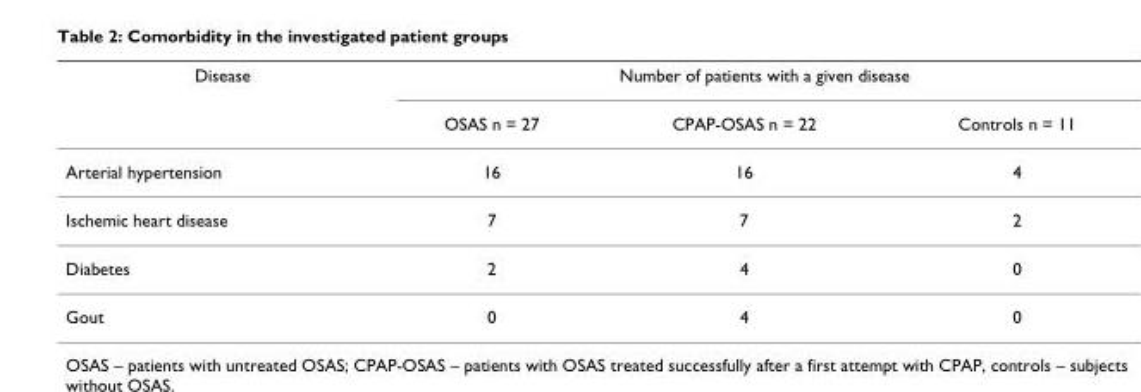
<table><thead><tr><td rowspan="2">Disease</td><td colspan="3">Number of patients with a given disease</td></tr><tr><td>OSAS n = 27</td><td>CPAP-OSAS n = 22</td><td>Controls n = 11</td></tr></thead><tbody><tr><td>Arterial hypertension</td><td>16</td><td>16</td><td>4</td></tr><tr><td>Ischemic heart disease</td><td>7</td><td>7</td><td>2</td></tr><tr><td>Diabetes</td><td>2</td><td>4</td><td>0</td></tr><tr><td>Gout</td><td>0</td><td>4</td><td>0</td></tr></tbody></table>